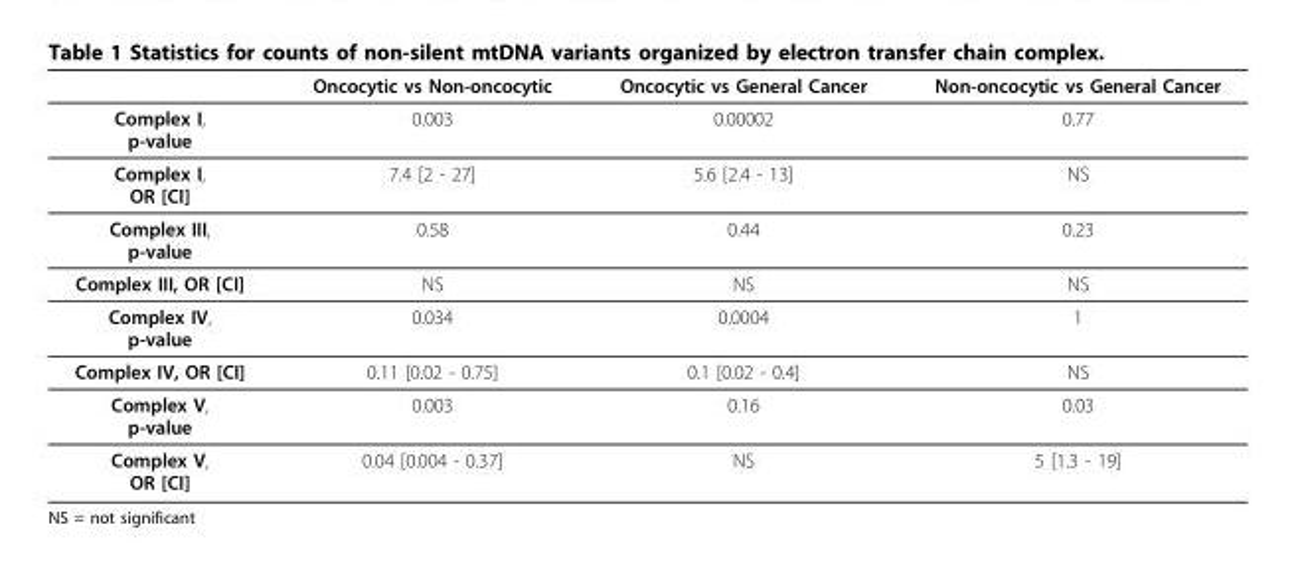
<table><thead><tr><td></td><td>Oncocytic vs Non-oncocytic</td><td>Oncocytic vs General Cancer</td><td>Non-oncocytic vs General Cancer</td></tr></thead><tbody><tr><td>Complex I, p-value</td><td>0.003</td><td>0.00002</td><td>0.77</td></tr><tr><td>Complex I, OR [CI]</td><td>7.4 [2 - 27]</td><td>5.6 [2.4 - 13]</td><td>NS</td></tr><tr><td>Complex III, p-value</td><td>0.58</td><td>0.44</td><td>0.23</td></tr><tr><td>Complex III, OR [CI]</td><td>NS</td><td>NS</td><td>NS</td></tr><tr><td>Complex IV, p-value</td><td>0.034</td><td>0.0004</td><td>1</td></tr><tr><td>Complex IV, OR [CI]</td><td>0.11 [0.02 - 0.75]</td><td>0.1 [0.02 - 0.4]</td><td>NS</td></tr><tr><td>Complex V, p-value</td><td>0.003</td><td>0.16</td><td>0.03</td></tr><tr><td>Complex V, OR [CI]</td><td>0.04 [0.004 - 0.37]</td><td>NS</td><td>5 [1.3 - 19]</td></tr></tbody></table>